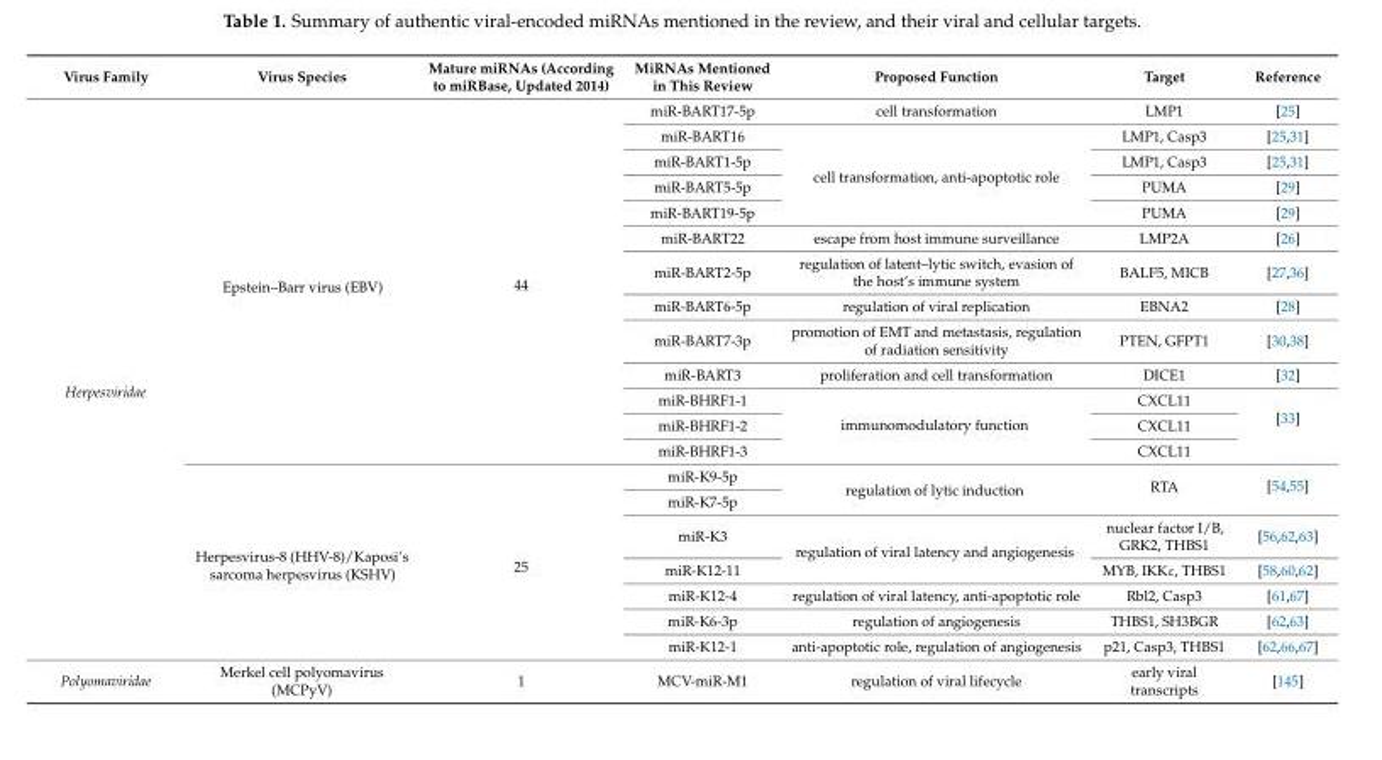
<table><thead><tr><td>Virus Family</td><td>Virus Species</td><td>Mature miRNAs (According to miRBase, Updated 2014)</td><td>MiRNAs Mentioned in This Review</td><td>Proposed Function</td><td>Target</td><td>Reference</td></tr></thead><tbody><tr><td rowspan="20">Herpesviridae</td><td rowspan="13">Epstein–Barr virus (EBV)</td><td rowspan="13">44</td><td>miR-BART17-5p</td><td>cell transformation</td><td>LMP1</td><td>[25]</td></tr><tr><td>miR-BART16</td><td rowspan="4">cell transformation, anti-apoptotic role</td><td>LMP1, Casp3</td><td>[25,31]</td></tr><tr><td>miR-BART1-5p</td><td>LMP1, Casp3</td><td>[25,31]</td></tr><tr><td>miR-BART5-5p</td><td>PUMA</td><td>[29]</td></tr><tr><td>miR-BART19-5p</td><td>PUMA</td><td>[29]</td></tr><tr><td>miR-BART22</td><td>escape from host immune surveillance</td><td>LMP2A</td><td>[26]</td></tr><tr><td>miR-BART2-5p</td><td>regulation of latent–lytic switch, evasion of the host‘s immune system</td><td>BALF5, MICB</td><td>[27,36]</td></tr><tr><td>miR-BART6-5p</td><td>regulation of viral replication</td><td>EBNA2</td><td>[28]</td></tr><tr><td>miR-BART7-3p</td><td>promotion of EMT and metastasis, regulation of radiation sensitivity</td><td>PTEN, GFPT1</td><td>[30,38]</td></tr><tr><td>miR-BART3</td><td>proliferation and cell transformation</td><td>DICE1</td><td>[32]</td></tr><tr><td>miR-BHRF1-1</td><td rowspan="3">immunomodulatory function</td><td>CXCL11</td><td rowspan="3">[33]</td></tr><tr><td>miR-BHRF1-2</td><td>CXCL11</td></tr><tr><td>miR-BHRF1-3</td><td>CXCL11</td></tr><tr><td rowspan="7">Herpesvirus-8 (HHV-8)/Kaposi’s sarcoma herpesvirus (KSHV)</td><td rowspan="7">25</td><td>miR-K9-5p</td><td rowspan="2">regulation of lytic induction</td><td rowspan="2">RTA</td><td rowspan="2">[54,55]</td></tr><tr><td>miR-K7-5p</td></tr><tr><td>miR-K3</td><td rowspan="2">regulation of viral latency and angiogenesis</td><td>nuclear factor I/B, GRK2, THBS1</td><td>[56,62,63]</td></tr><tr><td>miR-K12-11</td><td>MYB, IKKε, THBS1</td><td>[58,60,62]</td></tr><tr><td>miR-K12-4</td><td>regulation of viral latency, anti-apoptotic role</td><td>Rbl2, Casp3</td><td>[61,67]</td></tr><tr><td>miR-K6-3p</td><td>regulation of angiogenesis</td><td>THBS1, SH3BGR</td><td>[62,63]</td></tr><tr><td>miR-K12-1</td><td>anti-apoptotic role, regulation of angiogenesis</td><td>p21, Casp3, THBS1</td><td>[62,66,67]</td></tr><tr><td>Polyomaviridae</td><td>Merkel cell polyomavirus (MCPyV)</td><td>1</td><td>MCV-miR-M1</td><td>regulation of viral lifecycle</td><td>early viral transcripts</td><td>[145]</td></tr></tbody></table>